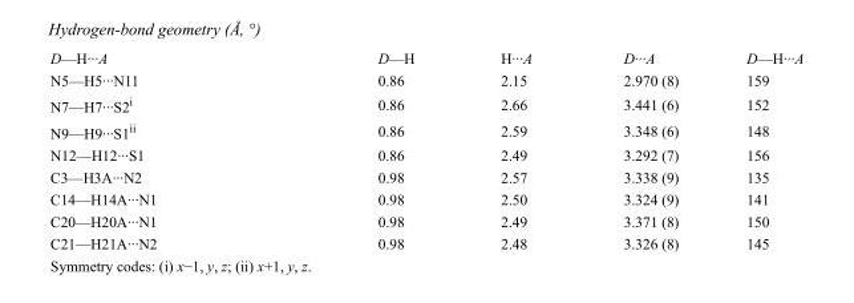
<table><tbody><tr><td>D—H···A</td><td>D—H</td><td>H···A</td><td>D···A</td><td>D—H···A</td></tr><tr><td>N5—H5···N11</td><td>0.86</td><td>2.15</td><td>2.970 (8)</td><td>159</td></tr><tr><td>N7—H7···S2<sup>i</sup></td><td>0.86</td><td>2.66</td><td>3.441 (6)</td><td>152</td></tr><tr><td>N9—H9···S1<sup>ii</sup></td><td>0.86</td><td>2.59</td><td>3.348 (6)</td><td>148</td></tr><tr><td>N12—H12···S1</td><td>0.86</td><td>2.49</td><td>3.292 (7)</td><td>156</td></tr><tr><td>C3—H3A···N2</td><td>0.98</td><td>2.57</td><td>3.338 (9)</td><td>135</td></tr><tr><td>C14—H14A···N1</td><td>0.98</td><td>2.50</td><td>3.324 (9)</td><td>141</td></tr><tr><td>C20—H20A···N1</td><td>0.98</td><td>2.49</td><td>3.371 (8)</td><td>150</td></tr><tr><td>C21—H21A···N2</td><td>0.98</td><td>2.48</td><td>3.326 (8)</td><td>145</td></tr></tbody></table>